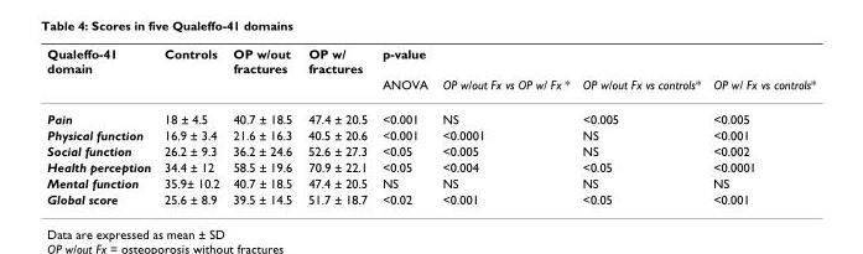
<table><thead><tr><td rowspan="2">Qualeffo-41 domain</td><td rowspan="2">Controls</td><td rowspan="2">OP w/out fractures</td><td rowspan="2">OP w/ fractures</td><td rowspan="2">p-value ANOVA</td><td rowspan="2">OP w/out Fx vs OP w/ Fx *</td><td rowspan="2">OP w/out Fx vs controls*</td><td rowspan="2">OP w/ Fx vs controls*</td></tr><tr></tr></thead><tbody><tr><td>Pain</td><td>18 ± 4.5</td><td>40.7 ± 18.5</td><td>47.4 ± 20.5</td><td>&lt;0.001</td><td>NS</td><td>&lt;0.005</td><td>&lt;0.005</td></tr><tr><td>Physical function</td><td>16.9 ± 3.4</td><td>21.6 ± 16.3</td><td>40.5 ± 20.6</td><td>&lt;0.001</td><td>&lt;0.0001</td><td>NS</td><td>&lt;0.001</td></tr><tr><td>Social function</td><td>26.2 ± 9.3</td><td>36.2 ± 24.6</td><td>52.6 ± 27.3</td><td>&lt;0.05</td><td>&lt;0.005</td><td>NS</td><td>&lt;0.002</td></tr><tr><td>Health perception</td><td>34.4 ± 12</td><td>58.5 ± 19.6</td><td>70.9 ± 22.1</td><td>&lt;0.05</td><td>&lt;0.004</td><td>&lt;0.05</td><td>&lt;0.0001</td></tr><tr><td>Mental function</td><td>35.9± 10.2</td><td>40.7 ± 18.5</td><td>47.4 ± 20.5</td><td>NS</td><td>NS</td><td>NS</td><td>NS</td></tr><tr><td>Global score</td><td>25.6 ± 8.9</td><td>39.5 ± 14.5</td><td>51.7 ± 18.7</td><td>&lt;0.02</td><td>&lt;0.001</td><td>&lt;0.05</td><td>&lt;0.001</td></tr></tbody></table>